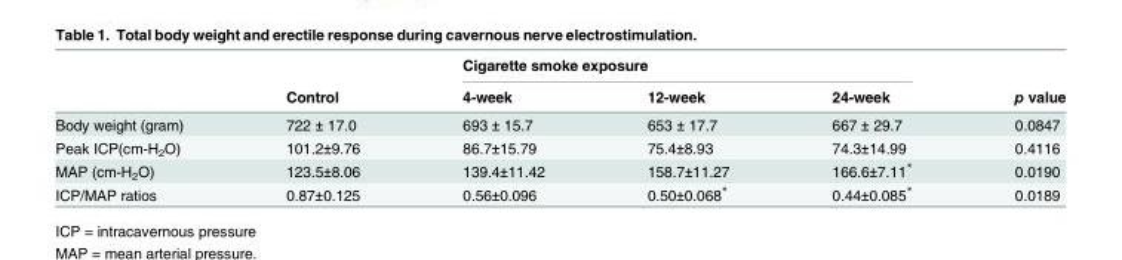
<table><thead><tr><td rowspan="2"></td><td rowspan="2">Control</td><td colspan="3">Cigarette smoke exposure</td><td rowspan="2">p value</td></tr><tr><td>4-week</td><td>12-week</td><td>24-week</td></tr></thead><tbody><tr><td>Body weight (gram)</td><td>722 ± 17.0</td><td>693 ± 15.7</td><td>653 ± 17.7</td><td>667 ± 29.7</td><td>0.0847</td></tr><tr><td>Peak ICP(cm-H<sub>2</sub>O)</td><td>101.2±9.76</td><td>86.7±15.79</td><td>75.4±8.93</td><td>74.3±14.99</td><td>0.4116</td></tr><tr><td>MAP (cm-H<sub>2</sub>O)</td><td>123.5±8.06</td><td>139.4±11.42</td><td>158.7±11.27</td><td>166.6±7.11*</td><td>0.0190</td></tr><tr><td>ICP/MAP ratios</td><td>0.87±0.125</td><td>0.56±0.096</td><td>0.50±0.068*</td><td>0.44±0.085*</td><td>0.0189</td></tr></tbody></table>